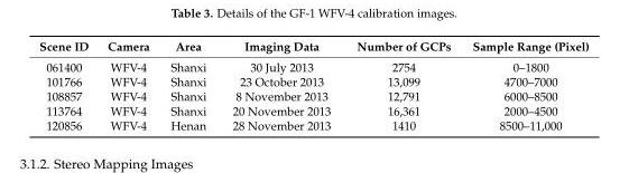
<table><thead><tr><td>Scene ID</td><td>Camera</td><td>Area</td><td>Imaging Data</td><td>Number of GCPs</td><td>Sample Range (Pixel)</td></tr></thead><tbody><tr><td>061400</td><td>WFV-4</td><td>Shanxi</td><td>30 July 2013</td><td>2754</td><td>0–1800</td></tr><tr><td>101766</td><td>WFV-4</td><td>Shanxi</td><td>23 October 2013</td><td>13,099</td><td>4700–7000</td></tr><tr><td>108857</td><td>WFV-4</td><td>Shanxi</td><td>8 November 2013</td><td>12,791</td><td>6000–8500</td></tr><tr><td>113764</td><td>WFV-4</td><td>Shanxi</td><td>20 November 2013</td><td>16,361</td><td>2000–4500</td></tr><tr><td>120856</td><td>WFV-4</td><td>Henan</td><td>28 November 2013</td><td>1410</td><td>8500–11,000</td></tr></tbody></table>